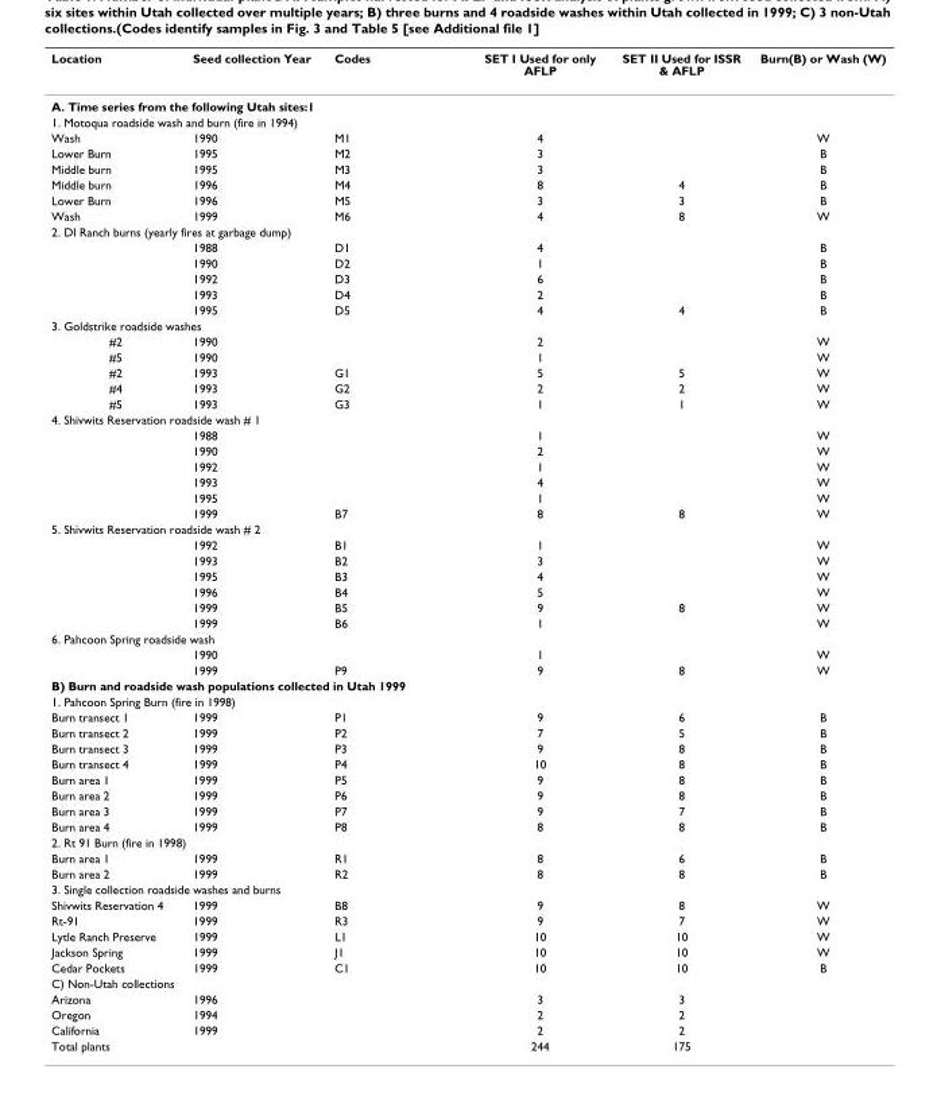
<table><thead><tr><td>Location</td><td>Seed collection Year</td><td>Codes</td><td>SET I Used for only AFLP</td><td>SET II Used for ISSR &amp; AFLP</td><td>Burn(B) or Wash (W)</td></tr></thead><tbody><tr><td colspan="6">A. Time series from the following Utah sites:1</td></tr><tr><td colspan="6">1. Motoqua roadside wash and burn (fire in 1994)</td></tr><tr><td>Wash</td><td>1990</td><td>M1</td><td>4</td><td></td><td>W</td></tr><tr><td>Lower Burn</td><td>1995</td><td>M2</td><td>3</td><td></td><td>B</td></tr><tr><td>Middle burn</td><td>1995</td><td>M3</td><td>3</td><td></td><td>B</td></tr><tr><td>Middle burn</td><td>1996</td><td>M4</td><td>8</td><td>4</td><td>B</td></tr><tr><td>Lower Burn</td><td>1996</td><td>M5</td><td>3</td><td>3</td><td>B</td></tr><tr><td>Wash</td><td>1999</td><td>M6</td><td>4</td><td>8</td><td>W</td></tr><tr><td colspan="6">2. DI Ranch burns (yearly fires at garbage dump)</td></tr><tr><td></td><td>1988</td><td>D1</td><td>4</td><td></td><td>B</td></tr><tr><td></td><td>1990</td><td>D2</td><td>1</td><td></td><td>B</td></tr><tr><td></td><td>1992</td><td>D3</td><td>6</td><td></td><td>B</td></tr><tr><td></td><td>1993</td><td>D4</td><td>2</td><td></td><td>B</td></tr><tr><td></td><td>1995</td><td>D5</td><td>4</td><td>4</td><td>B</td></tr><tr><td colspan="6">3. Goldstrike roadside washes</td></tr><tr><td>#2</td><td>1990</td><td></td><td>2</td><td></td><td>W</td></tr><tr><td>#5</td><td>1990</td><td></td><td>1</td><td></td><td>W</td></tr><tr><td>#2</td><td>1993</td><td>G1</td><td>5</td><td>5</td><td>W</td></tr><tr><td>#4</td><td>1993</td><td>G2</td><td>2</td><td>2</td><td>W</td></tr><tr><td>#5</td><td>1993</td><td>G3</td><td>1</td><td>1</td><td>W</td></tr><tr><td colspan="6">4. Shivwits Reservation roadside wash # 1</td></tr><tr><td></td><td>1988</td><td></td><td>1</td><td></td><td>W</td></tr><tr><td></td><td>1990</td><td></td><td>2</td><td></td><td>W</td></tr><tr><td></td><td>1992</td><td></td><td>1</td><td></td><td>W</td></tr><tr><td></td><td>1993</td><td></td><td>4</td><td></td><td>W</td></tr><tr><td></td><td>1995</td><td></td><td>1</td><td></td><td>W</td></tr><tr><td></td><td>1999</td><td>B7</td><td>8</td><td>8</td><td>W</td></tr><tr><td colspan="6">5. Shivwits Reservation roadside wash # 2</td></tr><tr><td></td><td>1992</td><td>B1</td><td>1</td><td></td><td>W</td></tr><tr><td></td><td>1993</td><td>B2</td><td>3</td><td></td><td>W</td></tr><tr><td></td><td>1995</td><td>B3</td><td>4</td><td></td><td>W</td></tr><tr><td></td><td>1996</td><td>B4</td><td>5</td><td></td><td>W</td></tr><tr><td></td><td>1999</td><td>B5</td><td>9</td><td>8</td><td>W</td></tr><tr><td></td><td>1999</td><td>B6</td><td>1</td><td></td><td>W</td></tr><tr><td colspan="6">6. Pahcoon Spring roadside wash</td></tr><tr><td></td><td>1990</td><td></td><td>1</td><td></td><td>W</td></tr><tr><td></td><td>1999</td><td>P9</td><td>9</td><td>8</td><td>W</td></tr><tr><td colspan="6">B) Burn and roadside wash populations collected in Utah 1999</td></tr><tr><td colspan="6">1. Pahcoon Spring Burn (fire in 1998)</td></tr><tr><td>Burn transect 1</td><td>1999</td><td>P1</td><td>9</td><td>6</td><td>B</td></tr><tr><td>Burn transect 2</td><td>1999</td><td>P2</td><td>7</td><td>5</td><td>B</td></tr><tr><td>Burn transect 3</td><td>1999</td><td>P3</td><td>9</td><td>8</td><td>B</td></tr><tr><td>Burn transect 4</td><td>1999</td><td>P4</td><td>10</td><td>8</td><td>B</td></tr><tr><td>Burn area 1</td><td>1999</td><td>P5</td><td>9</td><td>8</td><td>B</td></tr><tr><td>Burn area 2</td><td>1999</td><td>P6</td><td>9</td><td>8</td><td>B</td></tr><tr><td>Burn area 3</td><td>1999</td><td>P7</td><td>9</td><td>7</td><td>B</td></tr><tr><td>Burn area 4</td><td>1999</td><td>P8</td><td>8</td><td>8</td><td>B</td></tr><tr><td colspan="6">2. Rt 91 Burn (fire in 1998)</td></tr><tr><td>Burn area 1</td><td>1999</td><td>R1</td><td>8</td><td>6</td><td>B</td></tr><tr><td>Burn area 2</td><td>1999</td><td>R2</td><td>8</td><td>8</td><td>B</td></tr><tr><td colspan="6">3. Single collection roadside washes and burns</td></tr><tr><td>Shivwits Reservation 4</td><td>1999</td><td>B8</td><td>9</td><td>8</td><td>W</td></tr><tr><td>Rt-91</td><td>1999</td><td>R3</td><td>9</td><td>7</td><td>W</td></tr><tr><td>Lytle Ranch Preserve</td><td>1999</td><td>L1</td><td>10</td><td>10</td><td>W</td></tr><tr><td>Jackson Spring</td><td>1999</td><td>J1</td><td>10</td><td>10</td><td>W</td></tr><tr><td>Cedar Pockets</td><td>1999</td><td>C1</td><td>10</td><td>10</td><td>B</td></tr><tr><td colspan="6">C) Non-Utah collections</td></tr><tr><td>Arizona</td><td>1996</td><td></td><td>3</td><td>3</td><td></td></tr><tr><td>Oregon</td><td>1994</td><td></td><td>2</td><td>2</td><td></td></tr><tr><td>California</td><td>1999</td><td></td><td>2</td><td>2</td><td></td></tr><tr><td>Total plants</td><td></td><td></td><td>244</td><td>175</td><td></td></tr></tbody></table>